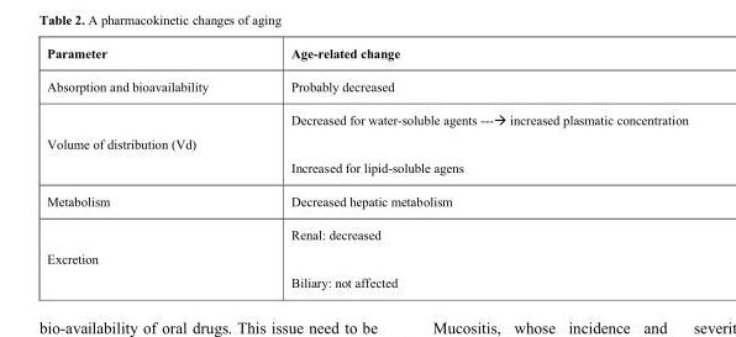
<table><thead><tr><td>Parameter</td><td>Age-related change</td></tr></thead><tbody><tr><td>Absorption and bioavailability</td><td>Probably decreased</td></tr><tr><td>Volume of distribution (Vd)</td><td>Decreased for water-soluble agents ---→ increased plasmatic concentration Increased for lipid-soluble agens</td></tr><tr><td>Metabolism</td><td>Decreased hepatic metabolism</td></tr><tr><td>Excretion</td><td>Renal: decreased Biliary: not affected</td></tr></tbody></table>